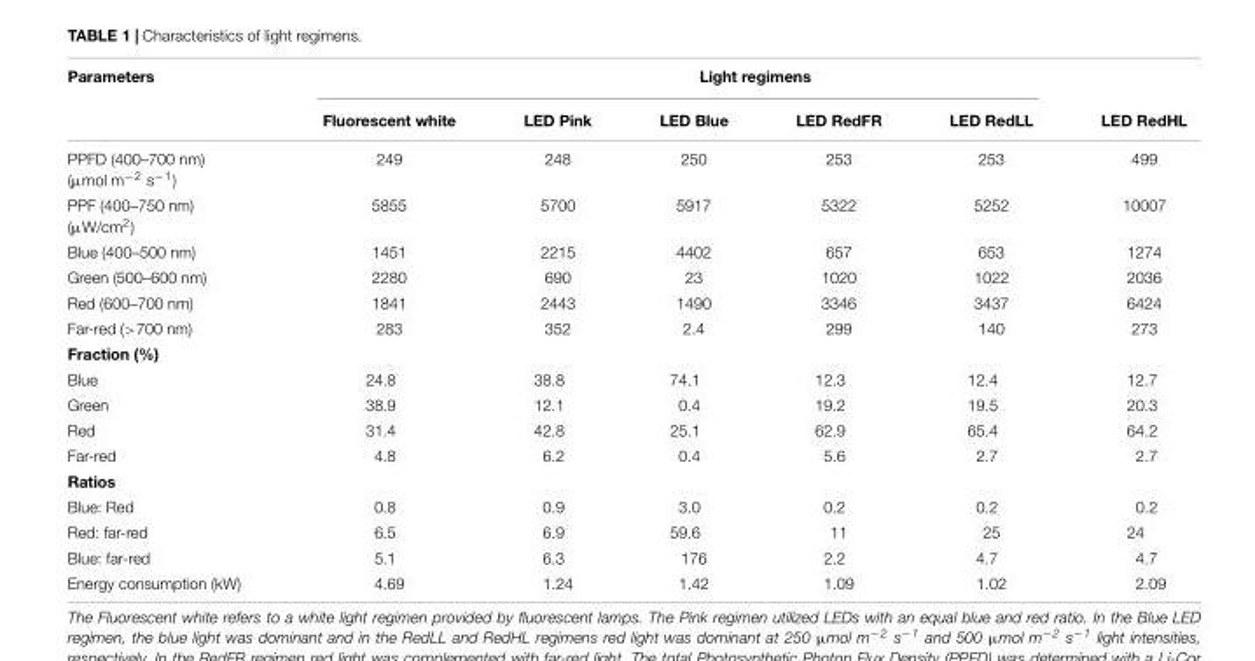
<table><thead><tr><td rowspan="2">Parameters</td><td colspan="6">Light regimens</td></tr><tr><td>Fluorescent white</td><td>LED Pink</td><td>LED Blue</td><td>LED RedFR</td><td>LED RedLL</td><td>LED RedHL</td></tr></thead><tbody><tr><td>PPFD (400–700 nm) (µmol m<sup>−2</sup> s<sup>−1</sup>)</td><td>249</td><td>248</td><td>250</td><td>253</td><td>253</td><td>499</td></tr><tr><td>PPF (400–750 nm) (µW/cm<sup>2</sup>)</td><td>5855</td><td>5700</td><td>5917</td><td>5322</td><td>5252</td><td>10007</td></tr><tr><td>Blue (400–500 nm)</td><td>1451</td><td>2215</td><td>4402</td><td>657</td><td>653</td><td>1274</td></tr><tr><td>Green (500–600 nm)</td><td>2280</td><td>690</td><td>23</td><td>1020</td><td>1022</td><td>2036</td></tr><tr><td>Red (600–700 nm)</td><td>1841</td><td>2443</td><td>1490</td><td>3346</td><td>3437</td><td>6424</td></tr><tr><td>Far-red (&gt;700 nm)</td><td>283</td><td>352</td><td>2.4</td><td>299</td><td>140</td><td>273</td></tr><tr><td colspan="7">Fraction (%)</td></tr><tr><td>Blue</td><td>24.8</td><td>38.8</td><td>74.1</td><td>12.3</td><td>12.4</td><td>12.7</td></tr><tr><td>Green</td><td>38.9</td><td>12.1</td><td>0.4</td><td>19.2</td><td>19.5</td><td>20.3</td></tr><tr><td>Red</td><td>31.4</td><td>42.8</td><td>25.1</td><td>62.9</td><td>65.4</td><td>64.2</td></tr><tr><td>Far-red</td><td>4.8</td><td>6.2</td><td>0.4</td><td>5.6</td><td>2.7</td><td>2.7</td></tr><tr><td colspan="7">Ratios</td></tr><tr><td>Blue: Red</td><td>0.8</td><td>0.9</td><td>3.0</td><td>0.2</td><td>0.2</td><td>0.2</td></tr><tr><td>Red: far-red</td><td>6.5</td><td>6.9</td><td>59.6</td><td>11</td><td>25</td><td>24</td></tr><tr><td>Blue: far-red</td><td>5.1</td><td>6.3</td><td>176</td><td>2.2</td><td>4.7</td><td>4.7</td></tr><tr><td>Energy consumption (kW)</td><td>4.69</td><td>1.24</td><td>1.42</td><td>1.09</td><td>1.02</td><td>2.09</td></tr></tbody></table>